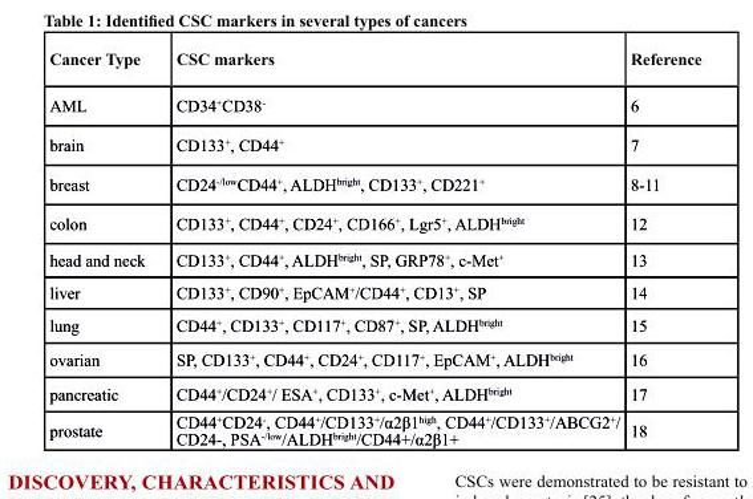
<table><thead><tr><td>Cancer Type</td><td>CSC markers</td><td>Reference</td></tr></thead><tbody><tr><td>AML</td><td>CD34<sup>+</sup>CD38<sup>-</sup></td><td>6</td></tr><tr><td>brain</td><td>CD133<sup>+</sup>, CD44<sup>+</sup></td><td>7</td></tr><tr><td>breast</td><td>CD24<sup>-/low</sup>CD44<sup>+</sup>, ALDH<sup>bright</sup>, CD133<sup>+</sup>, CD221<sup>+</sup></td><td>8-11</td></tr><tr><td>colon</td><td>CD133<sup>+</sup>, CD44<sup>+</sup>, CD24<sup>+</sup>, CD166<sup>+</sup>, Lgr5<sup>+</sup>, ALDH<sup>bright</sup></td><td>12</td></tr><tr><td>head and neck</td><td>CD133<sup>+</sup>, CD44<sup>+</sup>, ALDH<sup>bright</sup>, SP, GRP78<sup>+</sup>, c-Met<sup>+</sup></td><td>13</td></tr><tr><td>liver</td><td>CD133<sup>+</sup>, CD90<sup>+</sup>, EpCAM<sup>+</sup>/CD44<sup>+</sup>, CD13<sup>+</sup>, SP</td><td>14</td></tr><tr><td>lung</td><td>CD44<sup>+</sup>, CD133<sup>+</sup>, CD117<sup>+</sup>, CD87<sup>+</sup>, SP, ALDH<sup>bright</sup></td><td>15</td></tr><tr><td>ovarian</td><td>SP, CD133<sup>+</sup>, CD44<sup>+</sup>, CD24<sup>+</sup>, CD117<sup>+</sup>, EpCAM<sup>+</sup>, ALDH<sup>bright</sup></td><td>16</td></tr><tr><td>pancreatic</td><td>CD44<sup>+</sup>/CD24<sup>+</sup>/ ESA<sup>+</sup>, CD133<sup>+</sup>, c-Met<sup>+</sup>, ALDH<sup>bright</sup></td><td>17</td></tr><tr><td>prostate</td><td>CD44<sup>+</sup>CD24<sup>-</sup>, CD44<sup>+</sup>/CD133<sup>+</sup>/α2β1<sup>high</sup>, CD44<sup>+</sup>/CD133<sup>+</sup>/ABCG2<sup>+</sup>/ CD24-, PSA<sup>-/low</sup>/ALDH<sup>bright</sup>/CD44+/α2β1+</td><td>18</td></tr></tbody></table>